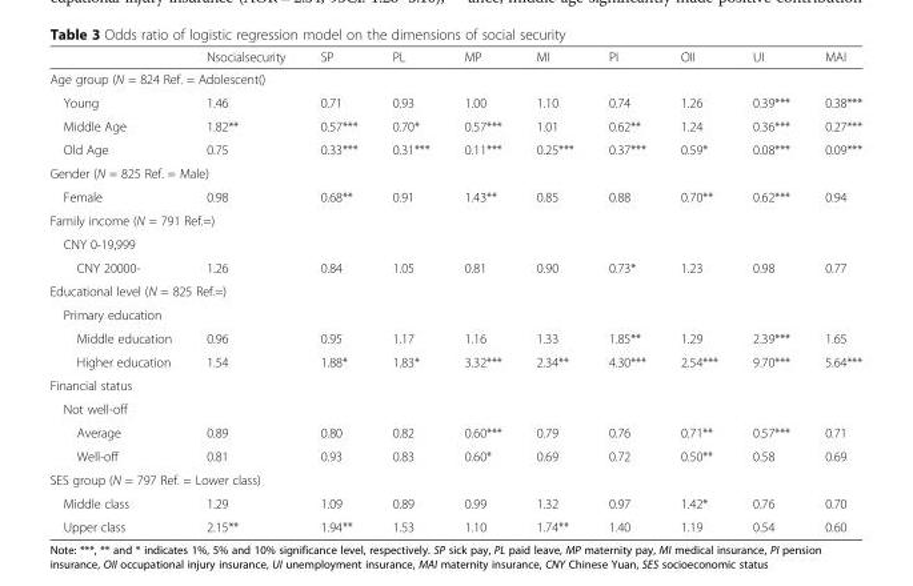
<table><thead><tr><td></td><td>Nsocialsecurity</td><td>SP</td><td>PL</td><td>MP</td><td>MI</td><td>PI</td><td>OII</td><td>UI</td><td>MAI</td></tr></thead><tbody><tr><td colspan="10">Age group (N = 824 Ref. = Adolescent()</td></tr><tr><td>Young</td><td>1.46</td><td>0.71</td><td>0.93</td><td>1.00</td><td>1.10</td><td>0.74</td><td>1.26</td><td>0.39***</td><td>0.38***</td></tr><tr><td>Middle Age</td><td>1.82**</td><td>0.57***</td><td>0.70*</td><td>0.57***</td><td>1.01</td><td>0.62**</td><td>1.24</td><td>0.36***</td><td>0.27***</td></tr><tr><td>Old Age</td><td>0.75</td><td>0.33***</td><td>0.31***</td><td>0.11***</td><td>0.25***</td><td>0.37***</td><td>0.59*</td><td>0.08***</td><td>0.09***</td></tr><tr><td colspan="10">Gender (N = 825 Ref. = Male)</td></tr><tr><td>Female</td><td>0.98</td><td>0.68**</td><td>0.91</td><td>1.43**</td><td>0.85</td><td>0.88</td><td>0.70**</td><td>0.62***</td><td>0.94</td></tr><tr><td colspan="10">Family income (N = 791 Ref.=)</td></tr><tr><td colspan="10">CNY 0-19,999</td></tr><tr><td>CNY 20000-</td><td>1.26</td><td>0.84</td><td>1.05</td><td>0.81</td><td>0.90</td><td>0.73*</td><td>1.23</td><td>0.98</td><td>0.77</td></tr><tr><td colspan="10">Educational level (N = 825 Ref.=)</td></tr><tr><td colspan="10">Primary education</td></tr><tr><td>Middle education</td><td>0.96</td><td>0.95</td><td>1.17</td><td>1.16</td><td>1.33</td><td>1.85**</td><td>1.29</td><td>2.39***</td><td>1.65</td></tr><tr><td>Higher education</td><td>1.54</td><td>1.88*</td><td>1.83*</td><td>3.32***</td><td>2.34**</td><td>4.30***</td><td>2.54***</td><td>9.70***</td><td>5.64***</td></tr><tr><td colspan="10">Financial status</td></tr><tr><td colspan="10">Not well-off</td></tr><tr><td>Average</td><td>0.89</td><td>0.80</td><td>0.82</td><td>0.60***</td><td>0.79</td><td>0.76</td><td>0.71**</td><td>0.57***</td><td>0.71</td></tr><tr><td>Well-off</td><td>0.81</td><td>0.93</td><td>0.83</td><td>0.60*</td><td>0.69</td><td>0.72</td><td>0.50**</td><td>0.58</td><td>0.69</td></tr><tr><td colspan="10">SES group (N = 797 Ref. = Lower class)</td></tr><tr><td>Middle class</td><td>1.29</td><td>1.09</td><td>0.89</td><td>0.99</td><td>1.32</td><td>0.97</td><td>1.42*</td><td>0.76</td><td>0.70</td></tr><tr><td>Upper class</td><td>2.15**</td><td>1.94**</td><td>1.53</td><td>1.10</td><td>1.74**</td><td>1.40</td><td>1.19</td><td>0.54</td><td>0.60</td></tr></tbody></table>